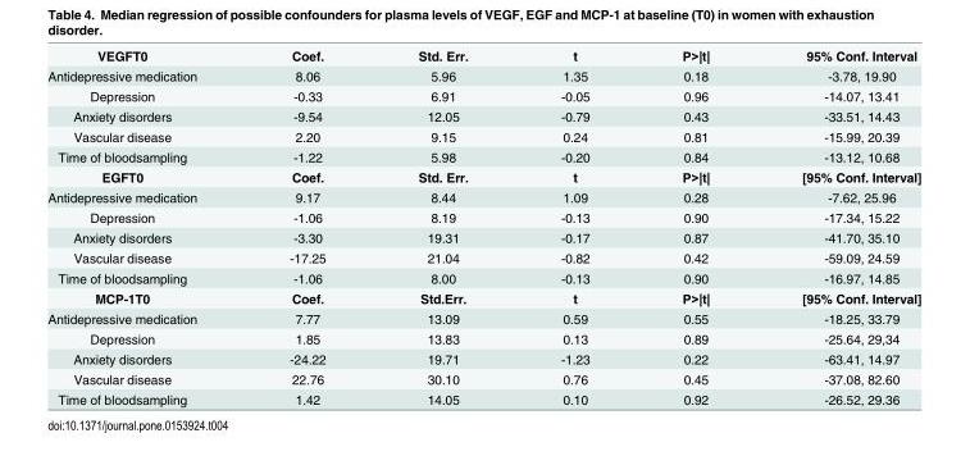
<table><tbody><tr><td>VEGFT0</td><td>Coef.</td><td>Std. Err.</td><td>t</td><td>P&gt;|t|</td><td>95% Conf. Interval</td></tr><tr><td>Antidepressive medication</td><td>8.06</td><td>5.96</td><td>1.35</td><td>0.18</td><td>-3.78, 19.90</td></tr><tr><td>Depression</td><td>-0.33</td><td>6.91</td><td>-0.05</td><td>0.96</td><td>-14.07, 13.41</td></tr><tr><td>Anxiety disorders</td><td>-9.54</td><td>12.05</td><td>-0.79</td><td>0.43</td><td>-33.51, 14.43</td></tr><tr><td>Vascular disease</td><td>2.20</td><td>9.15</td><td>0.24</td><td>0.81</td><td>-15.99, 20.39</td></tr><tr><td>Time of bloodsampling</td><td>-1.22</td><td>5.98</td><td>-0.20</td><td>0.84</td><td>-13.12, 10.68</td></tr><tr><td>EGFT0</td><td>Coef.</td><td>Std. Err.</td><td>t</td><td>P&gt;|t|</td><td>[95% Conf. Interval]</td></tr><tr><td>Antidepressive medication</td><td>9.17</td><td>8.44</td><td>1.09</td><td>0.28</td><td>-7.62, 25.96</td></tr><tr><td>Depression</td><td>-1.06</td><td>8.19</td><td>-0.13</td><td>0.90</td><td>-17.34, 15.22</td></tr><tr><td>Anxiety disorders</td><td>-3.30</td><td>19.31</td><td>-0.17</td><td>0.87</td><td>-41.70, 35.10</td></tr><tr><td>Vascular disease</td><td>-17.25</td><td>21.04</td><td>-0.82</td><td>0.42</td><td>-59.09, 24.59</td></tr><tr><td>Time of bloodsampling</td><td>-1.06</td><td>8.00</td><td>-0.13</td><td>0.90</td><td>-16.97, 14.85</td></tr><tr><td>MCP-1T0</td><td>Coef.</td><td>Std.Err.</td><td>t</td><td>P&gt;|t|</td><td>[95% Conf. Interval]</td></tr><tr><td>Antidepressive medication</td><td>7.77</td><td>13.09</td><td>0.59</td><td>0.55</td><td>-18.25, 33.79</td></tr><tr><td>Depression</td><td>1.85</td><td>13.83</td><td>0.13</td><td>0.89</td><td>-25.64, 29,34</td></tr><tr><td>Anxiety disorders</td><td>-24.22</td><td>19.71</td><td>-1.23</td><td>0.22</td><td>-63.41, 14.97</td></tr><tr><td>Vascular disease</td><td>22.76</td><td>30.10</td><td>0.76</td><td>0.45</td><td>-37.08, 82.60</td></tr><tr><td>Time of bloodsampling</td><td>1.42</td><td>14.05</td><td>0.10</td><td>0.92</td><td>-26.52, 29.36</td></tr></tbody></table>